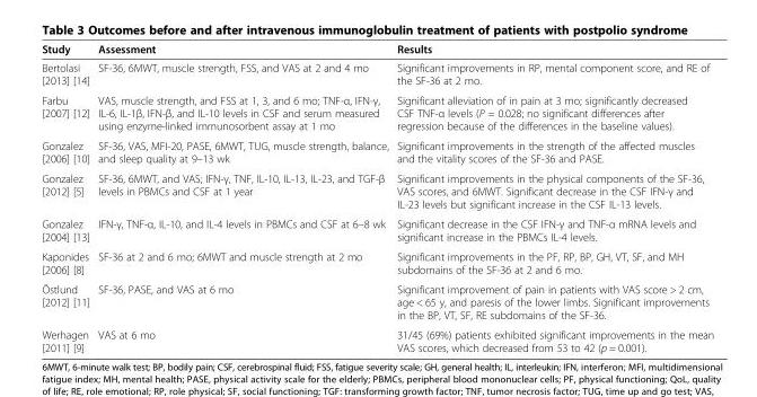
<table><thead><tr><td>Study</td><td>Assessment</td><td>Results</td></tr></thead><tbody><tr><td>Bertolasi [2013] [14]</td><td>SF-36, 6MWT, muscle strength, FSS, and VAS at 2 and 4 mo</td><td>Significant improvements in RP, mental component score, and RE of the SF-36 at 2 mo.</td></tr><tr><td>Farbu [2007] [12]</td><td>VAS, muscle strength, and FSS at 1, 3, and 6 mo; TNF-α, IFN-γ, IL-6, IL-1β, IFN-β, and IL-10 levels in CSF and serum measured using enzyme-linked immunosorbent assay at 1 mo</td><td>Significant alleviation of in pain at 3 mo; significantly decreased CSF TNF-α levels (P = 0.028; no significant differences after regression because of the differences in the baseline values).</td></tr><tr><td>Gonzalez [2006] [10]</td><td>SF-36, VAS, MFI-20, PASE, 6MWT, TUG, muscle strength, balance, and sleep quality at 9–13 wk</td><td>Significant improvements in the strength of the affected muscles and the vitality scores of the SF-36 and PASE.</td></tr><tr><td>Gonzalez [2012] [5]</td><td>SF-36, 6MWT, and VAS; IFN-γ, TNF, IL-10, IL-13, IL-23, and TGF-β levels in PBMCs and CSF at 1 year</td><td>Significant improvements in the physical components of the SF-36, VAS scores, and 6MWT. Significant decrease in the CSF IFN-γ and IL-23 levels but significant increase in the CSF IL-13 levels.</td></tr><tr><td>Gonzalez [2004] [13]</td><td>IFN-γ, TNF-α, IL-10, and IL-4 levels in PBMCs and CSF at 6–8 wk</td><td>Significant decrease in the CSF IFN-γ and TNF-α mRNA levels and significant increase in the PBMCs IL-4 levels.</td></tr><tr><td>Kaponides [2006] [8]</td><td>SF-36 at 2 and 6 mo; 6MWT and muscle strength at 2 mo</td><td>Significant improvements in the PF, RP, BP, GH, VT, SF, and MH subdomains of the SF-36 at 2 and 6 mo.</td></tr><tr><td>Östlund [2012] [11]</td><td>SF-36, PASE, and VAS at 6 mo</td><td>Significant improvement of pain in patients with VAS score &gt; 2 cm, age &lt; 65 y, and paresis of the lower limbs. Significant improvements in the BP, VT, SF, RE subdomains of the SF-36.</td></tr><tr><td>Werhagen [2011] [9]</td><td>VAS at 6 mo</td><td>31/45 (69%) patients exhibited significant improvements in the mean VAS scores, which decreased from 53 to 42 (p = 0.001).</td></tr></tbody></table>